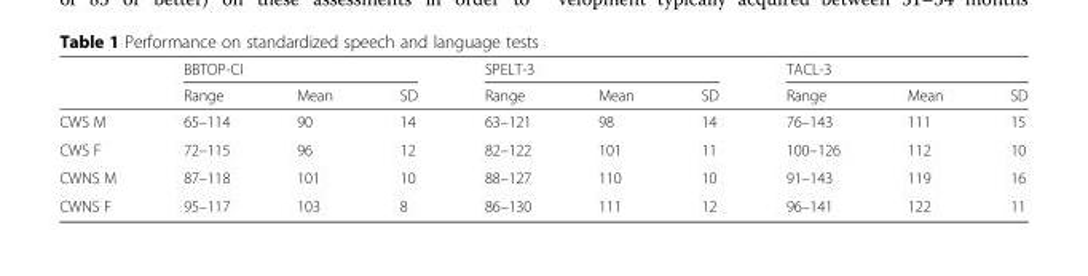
<table><thead><tr><td rowspan="2"></td><td colspan="3">BBTOP-CI</td><td colspan="3">SPELT-3</td><td colspan="3">TACL-3</td></tr><tr><td>Range</td><td>Mean</td><td>SD</td><td>Range</td><td>Mean</td><td>SD</td><td>Range</td><td>Mean</td><td>SD</td></tr></thead><tbody><tr><td>CWS M</td><td>65–114</td><td>90</td><td>14</td><td>63–121</td><td>98</td><td>14</td><td>76–143</td><td>111</td><td>15</td></tr><tr><td>CWS F</td><td>72–115</td><td>96</td><td>12</td><td>82–122</td><td>101</td><td>11</td><td>100–126</td><td>112</td><td>10</td></tr><tr><td>CWNS M</td><td>87–118</td><td>101</td><td>10</td><td>88–127</td><td>110</td><td>10</td><td>91–143</td><td>119</td><td>16</td></tr><tr><td>CWNS F</td><td>95–117</td><td>103</td><td>8</td><td>86–130</td><td>111</td><td>12</td><td>96–141</td><td>122</td><td>11</td></tr></tbody></table>